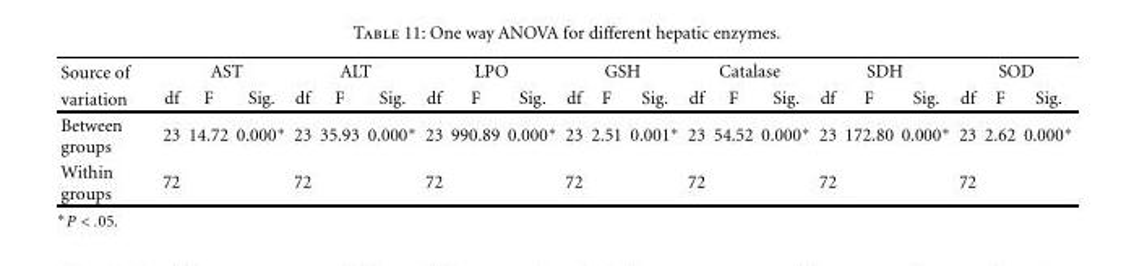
<table><thead><tr><td rowspan="2">Source of variation</td><td colspan="3">AST</td><td colspan="3">ALT</td><td colspan="3">LPO</td><td colspan="3">GSH</td><td colspan="3">Catalase</td><td colspan="3">SDH</td><td colspan="3">SOD</td></tr><tr><td>df</td><td>F</td><td>Sig.</td><td>df</td><td>F</td><td>Sig.</td><td>df</td><td>F</td><td>Sig.</td><td>df</td><td>F</td><td>Sig.</td><td>df</td><td>F</td><td>Sig.</td><td>df</td><td>F</td><td>Sig.</td><td>df</td><td>F</td><td>Sig.</td></tr></thead><tbody><tr><td>Between groups</td><td>23</td><td>14.72</td><td>0.000∗</td><td>23</td><td>35.93</td><td>0.000∗</td><td>23</td><td>990.89</td><td>0.000∗</td><td>23</td><td>2.51</td><td>0.001∗</td><td>23</td><td>54.52</td><td>0.000∗</td><td>23</td><td>172.80</td><td>0.000∗</td><td>23</td><td>2.62</td><td>0.000∗</td></tr><tr><td>Within groups</td><td>72</td><td></td><td></td><td>72</td><td></td><td></td><td>72</td><td></td><td></td><td>72</td><td></td><td></td><td>72</td><td></td><td></td><td>72</td><td></td><td></td><td>72</td><td></td><td></td></tr></tbody></table>